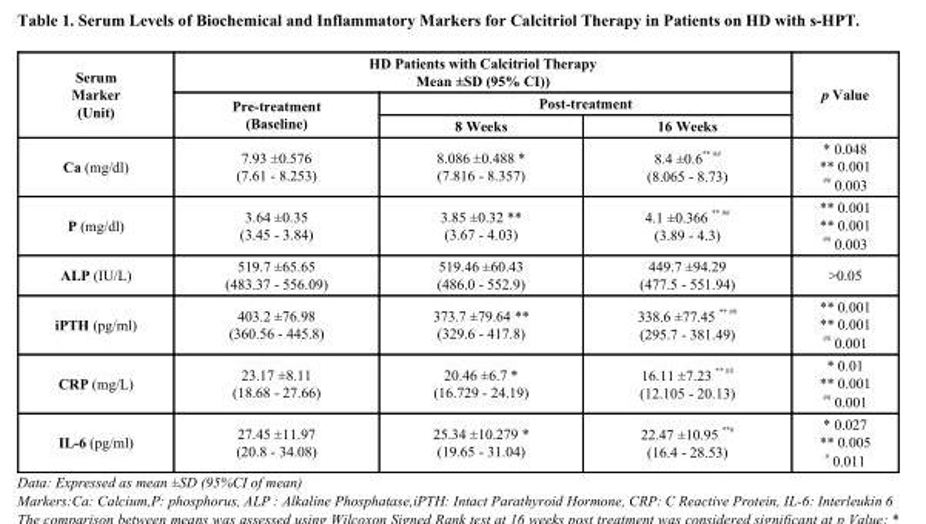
<table><thead><tr><td rowspan="3">Serum Marker (Unit)</td><td colspan="3">HD Patients with Calcitriol Therapy Mean ±SD (95% CI))</td><td rowspan="3">p Value</td></tr><tr><td rowspan="2">Pre-treatment (Baseline)</td><td colspan="2">Post-treatment</td></tr><tr><td>8 Weeks</td><td>16 Weeks</td></tr></thead><tbody><tr><td>Ca (mg/dl)</td><td>7.93 ±0.576 (7.61 - 8.253)</td><td>8.086 ±0.488 * (7.816 - 8.357)</td><td>8.4 ±0.6 <sup>** ##</sup> (8.065 - 8.73)</td><td>* 0.048 ** 0.001 <sup>##</sup> 0.003</td></tr><tr><td>P (mg/dl)</td><td>3.64 ±0.35 (3.45 - 3.84)</td><td>3.85 ±0.32 ** (3.67 - 4.03)</td><td>4.1 ±0.366 <sup>** ##</sup> (3.89 - 4.3)</td><td>** 0.001 ** 0.001 <sup>##</sup> 0.003</td></tr><tr><td>ALP (IU/L)</td><td>519.7 ±65.65 (483.37 - 556.09)</td><td>519.46 ±60.43 (486.0 - 552.9)</td><td>449.7 ±94.29 (477.5 - 551.94)</td><td>&gt;0.05</td></tr><tr><td>iPTH (pg/ml)</td><td>403.2 ±76.98 (360.56 - 445.8)</td><td>373.7 ±79.64 ** (329.6 - 417.8)</td><td>338.6 ±77.45 <sup>** ##</sup> (295.7 - 381.49)</td><td>** 0.001 ** 0.001 <sup>##</sup> 0.001</td></tr><tr><td>CRP (mg/L)</td><td>23.17 ±8.11 (18.68 - 27.66)</td><td>20.46 ±6.7 * (16.729 - 24.19)</td><td>16.11 ±7.23 <sup>** ##</sup> (12.105 - 20.13)</td><td>* 0.01 ** 0.001 <sup>##</sup> 0.001</td></tr><tr><td>IL-6 (pg/ml)</td><td>27.45 ±11.97 (20.8 - 34.08)</td><td>25.34 ±10.279 * (19.65 - 31.04)</td><td>22.47 ±10.95 <sup>**#</sup> (16.4 - 28.53)</td><td>* 0.027 ** 0.005 <sup>#</sup> 0.011</td></tr></tbody></table>